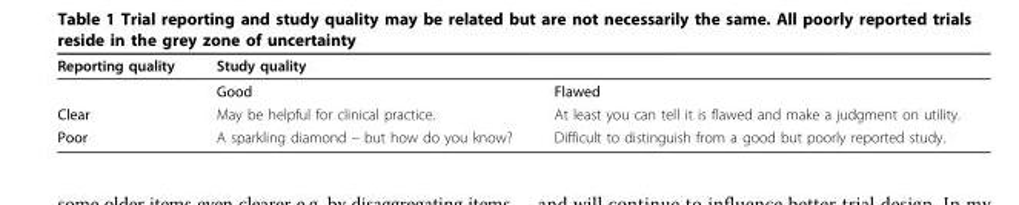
<table><thead><tr><td rowspan="2">Reporting quality</td><td colspan="2">Study quality</td></tr><tr><td>Good</td><td>Flawed</td></tr></thead><tbody><tr><td>Clear</td><td>May be helpful for clinical practice.</td><td>At least you can tell it is flawed and make a judgment on utility.</td></tr><tr><td>Poor</td><td>A sparkling diamond – but how do you know?</td><td>Difficult to distinguish from a good but poorly reported study.</td></tr></tbody></table>